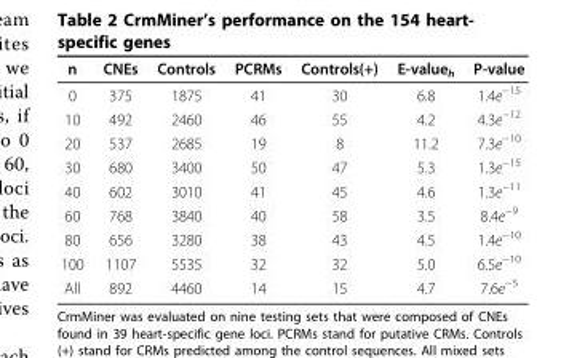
<table><thead><tr><td>n</td><td>CNEs</td><td>Controls</td><td>PCRMs</td><td>Controls(+)</td><td>E-value<sub>h</sub></td><td>P-value</td></tr></thead><tbody><tr><td>0</td><td>375</td><td>1875</td><td>41</td><td>30</td><td>6.8</td><td>1.4e<sup>−15</sup></td></tr><tr><td>10</td><td>492</td><td>2460</td><td>46</td><td>55</td><td>4.2</td><td>4.3e<sup>−12</sup></td></tr><tr><td>20</td><td>537</td><td>2685</td><td>19</td><td>8</td><td>11.2</td><td>7.3e<sup>−10</sup></td></tr><tr><td>30</td><td>680</td><td>3400</td><td>50</td><td>47</td><td>5.3</td><td>1.3e<sup>−15</sup></td></tr><tr><td>40</td><td>602</td><td>3010</td><td>41</td><td>45</td><td>4.6</td><td>1.3e<sup>−11</sup></td></tr><tr><td>60</td><td>768</td><td>3840</td><td>40</td><td>58</td><td>3.5</td><td>8.4e<sup>−9</sup></td></tr><tr><td>80</td><td>656</td><td>3280</td><td>38</td><td>43</td><td>4.5</td><td>1.4e<sup>−10</sup></td></tr><tr><td>100</td><td>1107</td><td>5535</td><td>32</td><td>32</td><td>5.0</td><td>6.5e<sup>−10</sup></td></tr><tr><td>All</td><td>892</td><td>4460</td><td>14</td><td>15</td><td>4.7</td><td>7.6e<sup>−5</sup></td></tr></tbody></table>